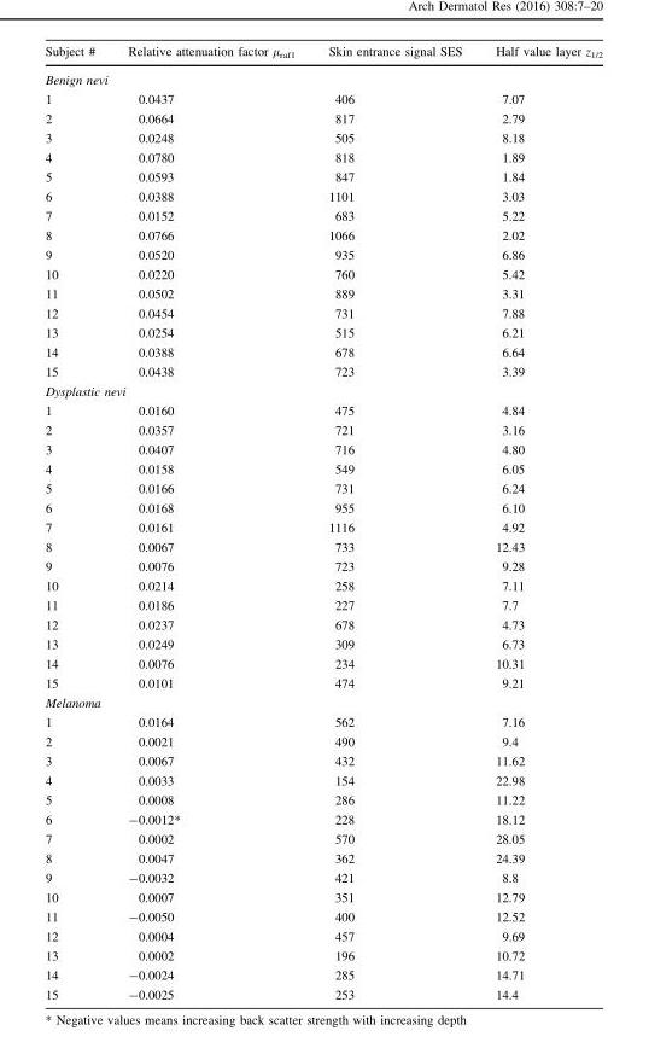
<table><thead><tr><td>Subject #</td><td>Relative attenuation factor µ<sub>raf1</sub></td><td>Skin entrance signal SES</td><td>Half value layer z<sub>1/2</sub></td></tr></thead><tbody><tr><td colspan="4">Benign nevi</td></tr><tr><td>1</td><td>0.0437</td><td>406</td><td>7.07</td></tr><tr><td>2</td><td>0.0664</td><td>817</td><td>2.79</td></tr><tr><td>3</td><td>0.0248</td><td>505</td><td>8.18</td></tr><tr><td>4</td><td>0.0780</td><td>818</td><td>1.89</td></tr><tr><td>5</td><td>0.0593</td><td>847</td><td>1.84</td></tr><tr><td>6</td><td>0.0388</td><td>1101</td><td>3.03</td></tr><tr><td>7</td><td>0.0152</td><td>683</td><td>5.22</td></tr><tr><td>8</td><td>0.0766</td><td>1066</td><td>2.02</td></tr><tr><td>9</td><td>0.0520</td><td>935</td><td>6.86</td></tr><tr><td>10</td><td>0.0220</td><td>760</td><td>5.42</td></tr><tr><td>11</td><td>0.0502</td><td>889</td><td>3.31</td></tr><tr><td>12</td><td>0.0454</td><td>731</td><td>7.88</td></tr><tr><td>13</td><td>0.0254</td><td>515</td><td>6.21</td></tr><tr><td>14</td><td>0.0388</td><td>678</td><td>6.64</td></tr><tr><td>15</td><td>0.0438</td><td>723</td><td>3.39</td></tr><tr><td colspan="4">Dysplastic nevi</td></tr><tr><td>1</td><td>0.0160</td><td>475</td><td>4.84</td></tr><tr><td>2</td><td>0.0357</td><td>721</td><td>3.16</td></tr><tr><td>3</td><td>0.0407</td><td>716</td><td>4.80</td></tr><tr><td>4</td><td>0.0158</td><td>549</td><td>6.05</td></tr><tr><td>5</td><td>0.0166</td><td>731</td><td>6.24</td></tr><tr><td>6</td><td>0.0168</td><td>955</td><td>6.10</td></tr><tr><td>7</td><td>0.0161</td><td>1116</td><td>4.92</td></tr><tr><td>8</td><td>0.0067</td><td>733</td><td>12.43</td></tr><tr><td>9</td><td>0.0076</td><td>723</td><td>9.28</td></tr><tr><td>10</td><td>0.0214</td><td>258</td><td>7.11</td></tr><tr><td>11</td><td>0.0186</td><td>227</td><td>7.7</td></tr><tr><td>12</td><td>0.0237</td><td>678</td><td>4.73</td></tr><tr><td>13</td><td>0.0249</td><td>309</td><td>6.73</td></tr><tr><td>14</td><td>0.0076</td><td>234</td><td>10.31</td></tr><tr><td>15</td><td>0.0101</td><td>474</td><td>9.21</td></tr><tr><td colspan="4">Melanoma</td></tr><tr><td>1</td><td>0.0164</td><td>562</td><td>7.16</td></tr><tr><td>2</td><td>0.0021</td><td>490</td><td>9.4</td></tr><tr><td>3</td><td>0.0067</td><td>432</td><td>11.62</td></tr><tr><td>4</td><td>0.0033</td><td>154</td><td>22.98</td></tr><tr><td>5</td><td>0.0008</td><td>286</td><td>11.22</td></tr><tr><td>6</td><td>-0.0012*</td><td>228</td><td>18.12</td></tr><tr><td>7</td><td>0.0002</td><td>570</td><td>28.05</td></tr><tr><td>8</td><td>0.0047</td><td>362</td><td>24.39</td></tr><tr><td>9</td><td>-0.0032</td><td>421</td><td>8.8</td></tr><tr><td>10</td><td>0.0007</td><td>351</td><td>12.79</td></tr><tr><td>11</td><td>-0.0050</td><td>400</td><td>12.52</td></tr><tr><td>12</td><td>0.0004</td><td>457</td><td>9.69</td></tr><tr><td>13</td><td>0.0002</td><td>196</td><td>10.72</td></tr><tr><td>14</td><td>-0.0024</td><td>285</td><td>14.71</td></tr><tr><td>15</td><td>-0.0025</td><td>253</td><td>14.4</td></tr></tbody></table>